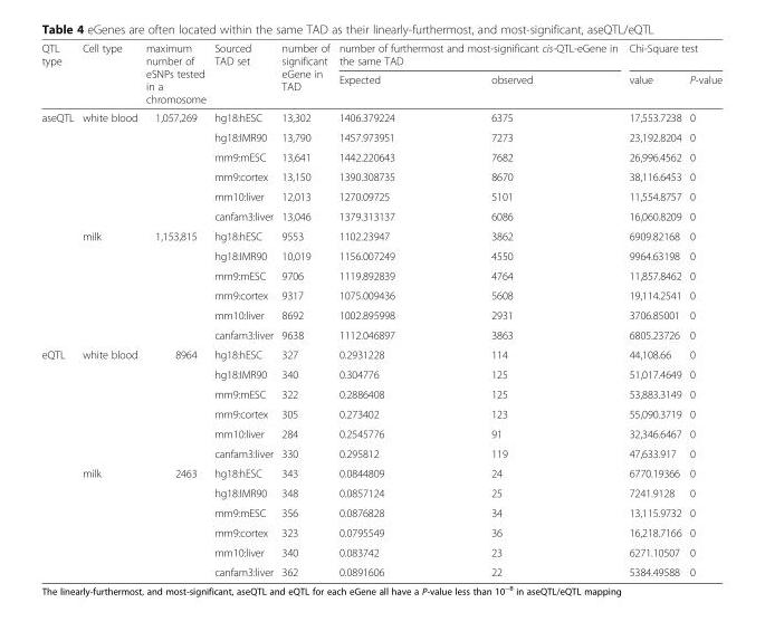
<table><thead><tr><td rowspan="2">QTL type</td><td rowspan="2">Cell type</td><td rowspan="2">maximum number of eSNPs tested in a chromosome</td><td rowspan="2">Sourced TAD set</td><td rowspan="2">number of significant eGene in TAD</td><td colspan="2">number of furthermost and most-significant cis-QTL-eGene in the same TAD</td><td colspan="2">Chi-Square test</td></tr><tr><td>Expected</td><td>observed</td><td>value</td><td>P-value</td></tr></thead><tbody><tr><td rowspan="12">aseQTL</td><td rowspan="6">white blood</td><td rowspan="6">1,057,269</td><td>hg18:hESC</td><td>13,302</td><td>1406.379224</td><td>6375</td><td>17,553.7238</td><td>0</td></tr><tr><td>hg18:IMR90</td><td>13,790</td><td>1457.973951</td><td>7273</td><td>23,192.8204</td><td>0</td></tr><tr><td>mm9:mESC</td><td>13,641</td><td>1442.220643</td><td>7682</td><td>26,996.4562</td><td>0</td></tr><tr><td>mm9:cortex</td><td>13,150</td><td>1390.308735</td><td>8670</td><td>38,116.6453</td><td>0</td></tr><tr><td>mm10:liver</td><td>12,013</td><td>1270.09725</td><td>5101</td><td>11,554.8757</td><td>0</td></tr><tr><td>canfam3:liver</td><td>13,046</td><td>1379.313137</td><td>6086</td><td>16,060.8209</td><td>0</td></tr><tr><td rowspan="6">milk</td><td rowspan="6">1,153,815</td><td>hg18:hESC</td><td>9553</td><td>1102.23947</td><td>3862</td><td>6909.82168</td><td>0</td></tr><tr><td>hg18:IMR90</td><td>10,019</td><td>1156.007249</td><td>4550</td><td>9964.63198</td><td>0</td></tr><tr><td>mm9:mESC</td><td>9706</td><td>1119.892839</td><td>4764</td><td>11,857.8462</td><td>0</td></tr><tr><td>mm9:cortex</td><td>9317</td><td>1075.009436</td><td>5608</td><td>19,114.2541</td><td>0</td></tr><tr><td>mm10:liver</td><td>8692</td><td>1002.895998</td><td>2931</td><td>3706.85001</td><td>0</td></tr><tr><td>canfam3:liver</td><td>9638</td><td>1112.046897</td><td>3863</td><td>6805.23726</td><td>0</td></tr><tr><td rowspan="12">eQTL</td><td rowspan="6">white blood</td><td rowspan="6">8964</td><td>hg18:hESC</td><td>327</td><td>0.2931228</td><td>114</td><td>44,108.66</td><td>0</td></tr><tr><td>hg18:IMR90</td><td>340</td><td>0.304776</td><td>125</td><td>51,017.4649</td><td>0</td></tr><tr><td>mm9:mESC</td><td>322</td><td>0.2886408</td><td>125</td><td>53,883.3149</td><td>0</td></tr><tr><td>mm9:cortex</td><td>305</td><td>0.273402</td><td>123</td><td>55,090.3719</td><td>0</td></tr><tr><td>mm10:liver</td><td>284</td><td>0.2545776</td><td>91</td><td>32,346.6467</td><td>0</td></tr><tr><td>canfam3:liver</td><td>330</td><td>0.295812</td><td>119</td><td>47,633.917</td><td>0</td></tr><tr><td rowspan="6">milk</td><td rowspan="6">2463</td><td>hg18:hESC</td><td>343</td><td>0.0844809</td><td>24</td><td>6770.19366</td><td>0</td></tr><tr><td>hg18:IMR90</td><td>348</td><td>0.0857124</td><td>25</td><td>7241.9128</td><td>0</td></tr><tr><td>mm9:mESC</td><td>356</td><td>0.0876828</td><td>34</td><td>13,115.9732</td><td>0</td></tr><tr><td>mm9:cortex</td><td>323</td><td>0.0795549</td><td>36</td><td>16,218.7166</td><td>0</td></tr><tr><td>mm10:liver</td><td>340</td><td>0.083742</td><td>23</td><td>6271.10507</td><td>0</td></tr><tr><td>canfam3:liver</td><td>362</td><td>0.0891606</td><td>22</td><td>5384.49588</td><td>0</td></tr></tbody></table>